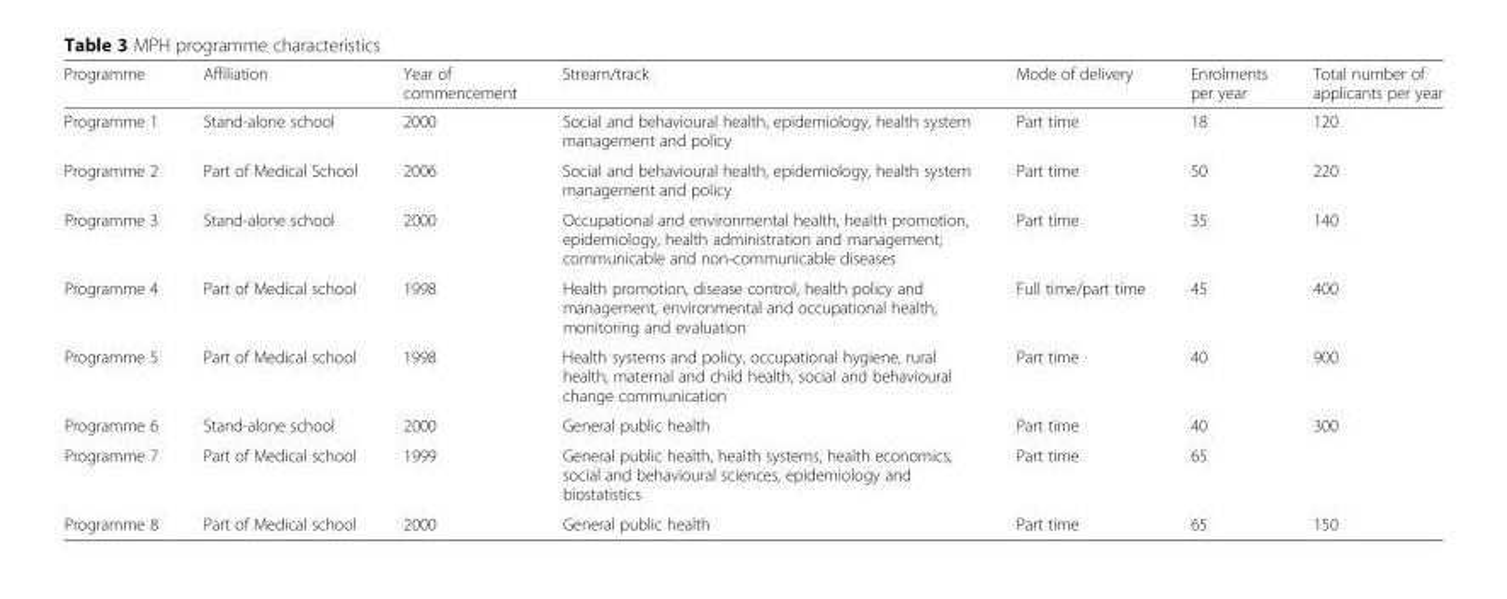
<table><thead><tr><td>Programme</td><td>Affiliation</td><td>Year of commencement</td><td>Stream/track</td><td>Mode of delivery</td><td>Enrolments per year</td><td>Total number of applicants per year</td></tr></thead><tbody><tr><td>Programme 1</td><td>Stand-alone school</td><td>2000</td><td>Social and behavioural health, epidemiology, health system management and policy</td><td>Part time</td><td>18</td><td>120</td></tr><tr><td>Programme 2</td><td>Part of Medical School</td><td>2006</td><td>Social and behavioural health, epidemiology, health system management and policy</td><td>Part time</td><td>50</td><td>220</td></tr><tr><td>Programme 3</td><td>Stand-alone school</td><td>2000</td><td>Occupational and environmental health, health promotion, epidemiology, health administration and management; communicable and non-communicable diseases</td><td>Part time</td><td>35</td><td>140</td></tr><tr><td>Programme 4</td><td>Part of Medical school</td><td>1998</td><td>Health promotion, disease control, health policy and management, environmental and occupational health, monitoring and evaluation</td><td>Full time/part time</td><td>45</td><td>400</td></tr><tr><td>Programme 5</td><td>Part of Medical school</td><td>1998</td><td>Health systems and policy, occupational hygiene, rural health, maternal and child health, social and behavioural change communication</td><td>Part time</td><td>40</td><td>900</td></tr><tr><td>Programme 6</td><td>Stand-alone school</td><td>2000</td><td>General public health</td><td>Part time</td><td>40</td><td>300</td></tr><tr><td>Programme 7</td><td>Part of Medical school</td><td>1999</td><td>General public health, health systems, health economics, social and behavioural sciences, epidemiology and biostatistics</td><td>Part time</td><td>65</td><td></td></tr><tr><td>Programme 8</td><td>Part of Medical school</td><td>2000</td><td>General public health</td><td>Part time</td><td>65</td><td>150</td></tr></tbody></table>